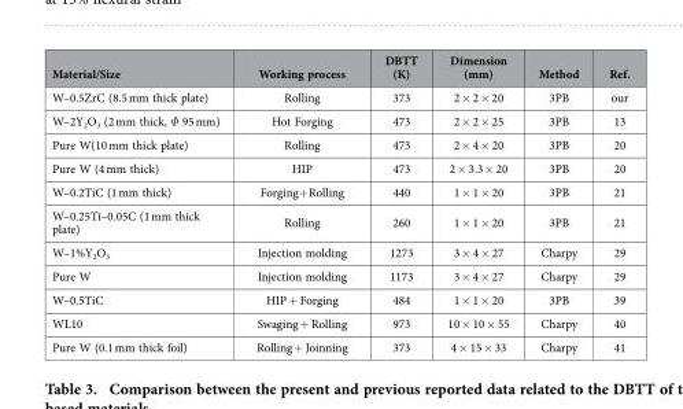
<table><thead><tr><td>Material/Size</td><td>Working process</td><td>DBTT (K)</td><td>Dimension (mm)</td><td>Method</td><td>Ref.</td></tr></thead><tbody><tr><td>W–0.5ZrC (8.5 mm thick plate)</td><td>Rolling</td><td>373</td><td>2 × 2 × 20</td><td>3PB</td><td>our</td></tr><tr><td>W–2Y<sub>2</sub>O<sub>3</sub> (2 mm thick, Φ 95 mm)</td><td>Hot Forging</td><td>473</td><td>2 × 2 × 25</td><td>3PB</td><td>13</td></tr><tr><td>Pure W(10 mm thick plate)</td><td>Rolling</td><td>473</td><td>2 × 4 × 20</td><td>3PB</td><td>20</td></tr><tr><td>Pure W (4 mm thick)</td><td>HIP</td><td>473</td><td>2 × 3.3 × 20</td><td>3PB</td><td>20</td></tr><tr><td>W–0.2TiC (1 mm thick)</td><td>Forging+ Rolling</td><td>440</td><td>1 × 1 × 20</td><td>3PB</td><td>21</td></tr><tr><td>W–0.25Ti–0.05C (1 mm thick plate)</td><td>Rolling</td><td>260</td><td>1 × 1 × 20</td><td>3PB</td><td>21</td></tr><tr><td>W–1%Y<sub>2</sub>O<sub>3</sub></td><td>Injection molding</td><td>1273</td><td>3 × 4 × 27</td><td>Charpy</td><td>29</td></tr><tr><td>Pure W</td><td>Injection molding</td><td>1173</td><td>3 × 4 × 27</td><td>Charpy</td><td>29</td></tr><tr><td>W–0.5TiC</td><td>HIP + Forging</td><td>484</td><td>1 × 1 × 20</td><td>3PB</td><td>39</td></tr><tr><td>WL10</td><td>Swaging + Rolling</td><td>973</td><td>10 × 10 × 55</td><td>Charpy</td><td>40</td></tr><tr><td>Pure W (0.1 mm thick foil)</td><td>Rolling + Joinning</td><td>373</td><td>4 × 15 × 33</td><td>Charpy</td><td>41</td></tr></tbody></table>